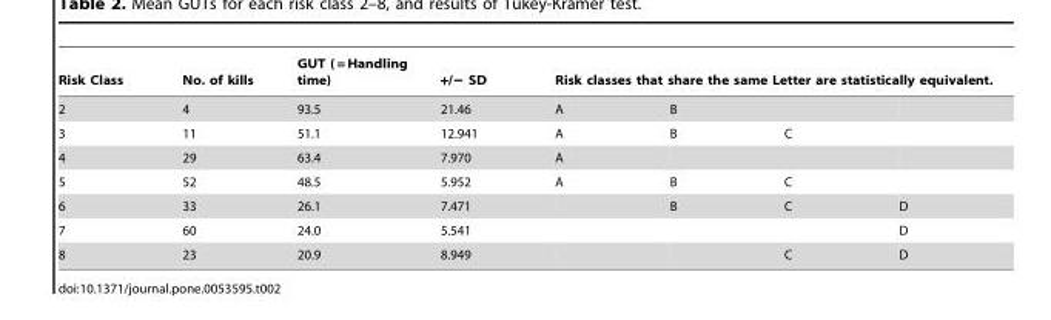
<table><thead><tr><td rowspan="2">Risk Class 2</td><td rowspan="2">No. of kills 4</td><td rowspan="2">GUT ( = Handling time) 93.5</td><td rowspan="2">+/− SD 21.46</td><td colspan="4">Risk classes that share the same Letter are statistically equivalent.</td></tr><tr><td>A</td><td>B</td><td></td><td></td></tr></thead><tbody><tr><td>3</td><td>11</td><td>51.1</td><td>12.941</td><td>A</td><td>B</td><td>C</td><td></td></tr><tr><td>4</td><td>29</td><td>63.4</td><td>7.970</td><td>A</td><td></td><td></td><td></td></tr><tr><td>5</td><td>52</td><td>48.5</td><td>5.952</td><td>A</td><td>B</td><td>C</td><td></td></tr><tr><td>6</td><td>33</td><td>26.1</td><td>7.471</td><td></td><td>B</td><td>C</td><td>D</td></tr><tr><td>7</td><td>60</td><td>24.0</td><td>5.541</td><td></td><td></td><td></td><td>D</td></tr><tr><td>8</td><td>23</td><td>20.9</td><td>8.949</td><td></td><td></td><td>C</td><td>D</td></tr></tbody></table>